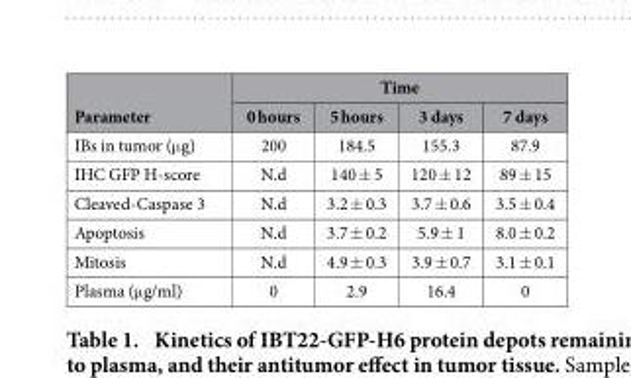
<table><thead><tr><td rowspan="2">Parameter</td><td colspan="4">Time</td></tr><tr><td>0 hours</td><td>5 hours</td><td>3 days</td><td>7 days</td></tr></thead><tbody><tr><td>IBs in tumor (μ g)</td><td>200</td><td>184.5</td><td>155.3</td><td>87.9</td></tr><tr><td>IHC GFP H-score</td><td>N.d</td><td>140 ± 5</td><td>120 ± 12</td><td>89 ± 15</td></tr><tr><td>Cleaved-Caspase 3</td><td>N.d</td><td>3.2 ± 0.3</td><td>3.7 ± 0.6</td><td>3.5 ± 0.4</td></tr><tr><td>Apoptosis</td><td>N.d</td><td>3.7 ± 0.2</td><td>5.9 ± 1</td><td>8.0 ± 0.2</td></tr><tr><td>Mitosis</td><td>N.d</td><td>4.9 ± 0.3</td><td>3.9 ± 0.7</td><td>3.1 ± 0.1</td></tr><tr><td>Plasma (μ g/ml)</td><td>0</td><td>2.9</td><td>16.4</td><td>0</td></tr></tbody></table>